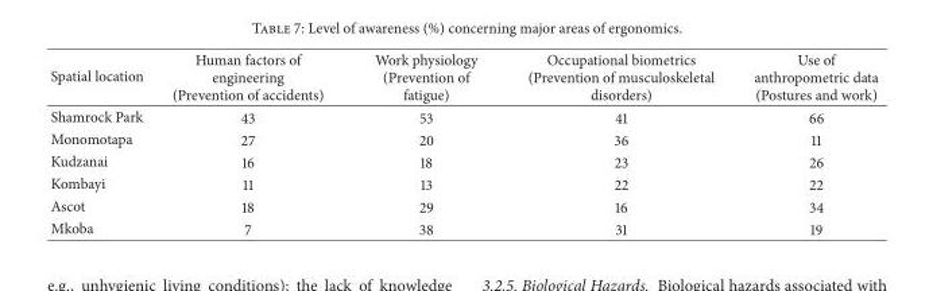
<table><thead><tr><td>Spatial location</td><td>Human factors of engineering (Prevention of accidents)</td><td>Work physiology (Prevention of fatigue)</td><td>Occupational biometrics (Prevention of musculoskeletal disorders)</td><td>Use of anthropometric data (Postures and work)</td></tr></thead><tbody><tr><td>Shamrock Park</td><td>43</td><td>53</td><td>41</td><td>66</td></tr><tr><td>Monomotapa</td><td>27</td><td>20</td><td>36</td><td>11</td></tr><tr><td>Kudzanai</td><td>16</td><td>18</td><td>23</td><td>26</td></tr><tr><td>Kombayi</td><td>11</td><td>13</td><td>22</td><td>22</td></tr><tr><td>Ascot</td><td>18</td><td>29</td><td>16</td><td>34</td></tr><tr><td>Mkoba</td><td>7</td><td>38</td><td>31</td><td>19</td></tr></tbody></table>